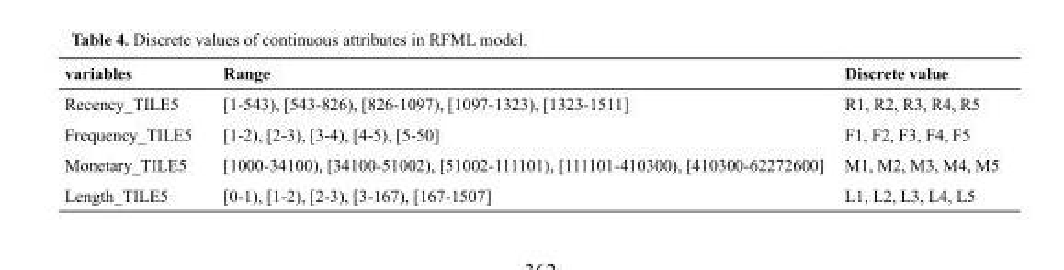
<table><thead><tr><td>variables</td><td>Range</td><td>Discrete value</td></tr></thead><tbody><tr><td>Recency_TILE5</td><td>[1-543), [543-826), [826-1097), [1097-1323), [1323-1511]</td><td>R1, R2, R3, R4, R5</td></tr><tr><td>Frequency_TILE5</td><td>[1-2), [2-3), [3-4), [4-5), [5-50]</td><td>F1, F2, F3, F4, F5</td></tr><tr><td>Monetary_TILE5</td><td>[1000-34100), [34100-51002), [51002-111101), [111101-410300), [410300-62272600]</td><td>M1, M2, M3, M4, M5</td></tr><tr><td>Length_TILE5</td><td>[0-1), [1-2), [2-3), [3-167), [167-1507]</td><td>L1, L2, L3, L4, L5</td></tr></tbody></table>